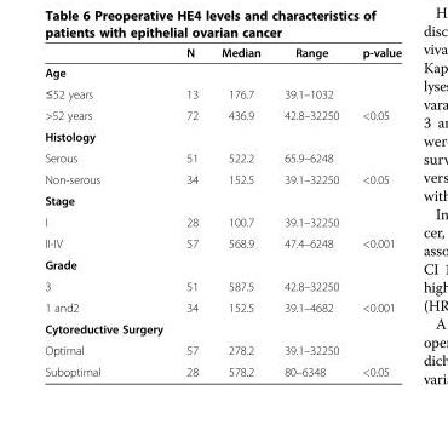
<table><thead><tr><td></td><td>N</td><td>Median</td><td>Range</td><td>p-value</td></tr></thead><tbody><tr><td colspan="5">Age</td></tr><tr><td>≤52 years</td><td>13</td><td>176.7</td><td>39.1–1032</td><td></td></tr><tr><td>&gt;52 years</td><td>72</td><td>436.9</td><td>42.8–32250</td><td>&lt;0.05</td></tr><tr><td colspan="5">Histology</td></tr><tr><td>Serous</td><td>51</td><td>522.2</td><td>65.9–6248</td><td></td></tr><tr><td>Non-serous</td><td>34</td><td>152.5</td><td>39.1–32250</td><td>&lt;0.05</td></tr><tr><td colspan="5">Stage</td></tr><tr><td>I</td><td>28</td><td>100.7</td><td>39.1–32250</td><td></td></tr><tr><td>II-IV</td><td>57</td><td>568.9</td><td>47.4–6248</td><td>&lt;0.001</td></tr><tr><td colspan="5">Grade</td></tr><tr><td>3</td><td>51</td><td>587.5</td><td>42.8–32250</td><td></td></tr><tr><td>1 and2</td><td>34</td><td>152.5</td><td>39.1–4682</td><td>&lt;0.001</td></tr><tr><td colspan="5">Cytoreductive Surgery</td></tr><tr><td>Optimal</td><td>57</td><td>278.2</td><td>39.1–32250</td><td></td></tr><tr><td>Suboptimal</td><td>28</td><td>578.2</td><td>80–6348</td><td>&lt;0.05</td></tr></tbody></table>